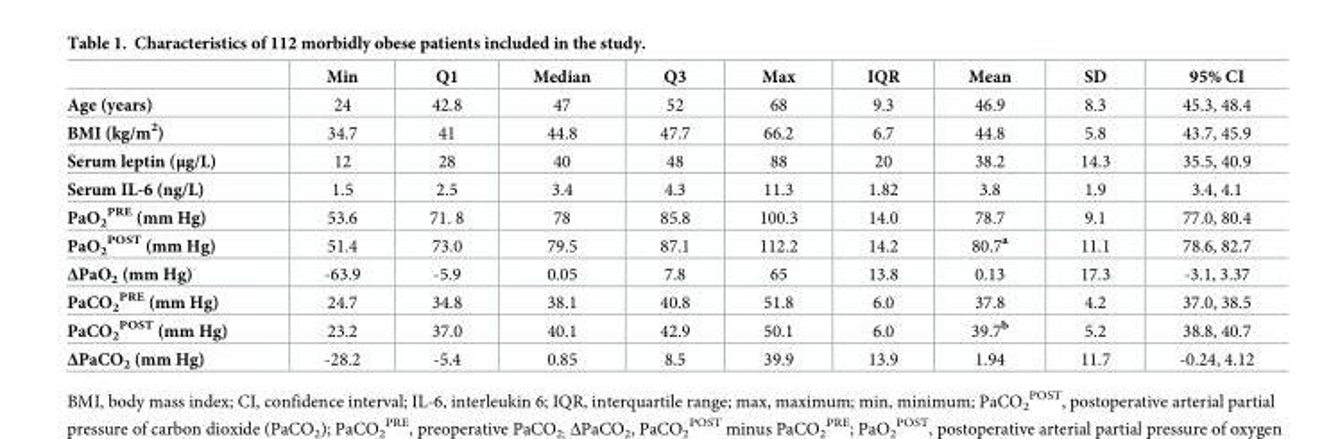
<table><thead><tr><td></td><td>Min</td><td>Q1</td><td>Median</td><td>Q3</td><td>Max</td><td>IQR</td><td>Mean</td><td>SD</td><td>95% CI</td></tr></thead><tbody><tr><td>Age (years)</td><td>24</td><td>42.8</td><td>47</td><td>52</td><td>68</td><td>9.3</td><td>46.9</td><td>8.3</td><td>45.3, 48.4</td></tr><tr><td>BMI (kg/m<sup>2</sup>)</td><td>34.7</td><td>41</td><td>44.8</td><td>47.7</td><td>66.2</td><td>6.7</td><td>44.8</td><td>5.8</td><td>43.7, 45.9</td></tr><tr><td>Serum leptin (μg/L)</td><td>12</td><td>28</td><td>40</td><td>48</td><td>88</td><td>20</td><td>38.2</td><td>14.3</td><td>35.5, 40.9</td></tr><tr><td>Serum IL-6 (ng/L)</td><td>1.5</td><td>2.5</td><td>3.4</td><td>4.3</td><td>11.3</td><td>1.82</td><td>3.8</td><td>1.9</td><td>3.4, 4.1</td></tr><tr><td>PaO<sub>2</sub> <sup>PRE</sup> (mm Hg)</td><td>53.6</td><td>71. 8</td><td>78</td><td>85.8</td><td>100.3</td><td>14.0</td><td>78.7</td><td>9.1</td><td>77.0, 80.4</td></tr><tr><td>PaO<sub>2</sub> <sup>POST</sup> (mm Hg)</td><td>51.4</td><td>73.0</td><td>79.5</td><td>87.1</td><td>112.2</td><td>14.2</td><td>80.7<sup>a</sup></td><td>11.1</td><td>78.6, 82.7</td></tr><tr><td>ΔPaO<sub>2</sub> (mm Hg)</td><td>-63.9</td><td>-5.9</td><td>0.05</td><td>7.8</td><td>65</td><td>13.8</td><td>0.13</td><td>17.3</td><td>-3.1, 3.37</td></tr><tr><td>PaCO<sub>2</sub> <sup>PRE</sup> (mm Hg)</td><td>24.7</td><td>34.8</td><td>38.1</td><td>40.8</td><td>51.8</td><td>6.0</td><td>37.8</td><td>4.2</td><td>37.0, 38.5</td></tr><tr><td>PaCO<sub>2</sub> <sup>POST</sup> (mm Hg)</td><td>23.2</td><td>37.0</td><td>40.1</td><td>42.9</td><td>50.1</td><td>6.0</td><td>39.7<sup>b</sup></td><td>5.2</td><td>38.8, 40.7</td></tr><tr><td>ΔPaCO<sub>2</sub> (mm Hg)</td><td>-28.2</td><td>-5.4</td><td>0.85</td><td>8.5</td><td>39.9</td><td>13.9</td><td>1.94</td><td>11.7</td><td>-0.24, 4.12</td></tr></tbody></table>